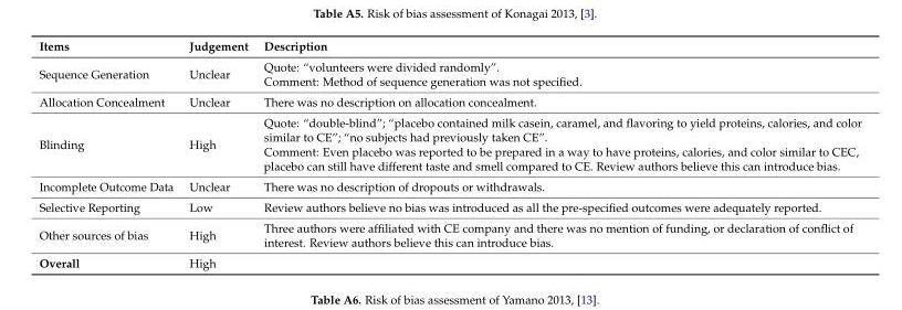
<table><thead><tr><td>Items</td><td>Judgement</td><td>Description</td></tr></thead><tbody><tr><td>Sequence Generation</td><td>Unclear</td><td>Quote: “volunteers were divided randomly”. Comment: Method of sequence generation was not specified.</td></tr><tr><td>Allocation Concealment</td><td>Unclear</td><td>There was no description on allocation concealment.</td></tr><tr><td>Blinding</td><td>High</td><td>Quote: “double-blind”; “placebo contained milk casein, caramel, and flavoring to yield proteins, calories, and color similar to CE”; “no subjects had previously taken CE”. Comment: Even placebo was reported to be prepared in a way to have proteins, calories, and color similar to CEC, placebo can still have different taste and smell compared to CE. Review authors believe this can introduce bias.</td></tr><tr><td>Incomplete Outcome Data</td><td>Unclear</td><td>There was no description of dropouts or withdrawals.</td></tr><tr><td>Selective Reporting</td><td>Low</td><td>Review authors believe no bias was introduced as all the pre-specified outcomes were adequately reported.</td></tr><tr><td>Other sources of bias</td><td>High</td><td>Three authors were affiliated with CE company and there was no mention of funding, or declaration of conflict of interest. Review authors believe this can introduce bias.</td></tr><tr><td>Overall</td><td>High</td><td></td></tr></tbody></table>